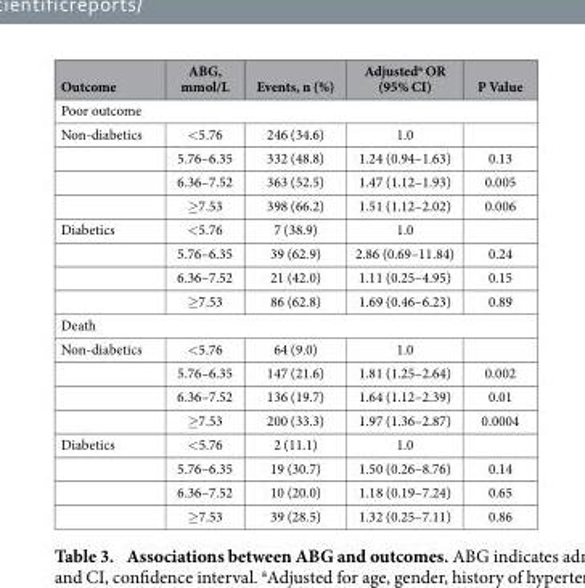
<table><thead><tr><td>Outcome</td><td>ABG, mmol/L</td><td>Events, n (%)</td><td>Adjusted<sup>a</sup> OR (95% CI)</td><td>P Value</td></tr></thead><tbody><tr><td colspan="5">Poor outcome</td></tr><tr><td rowspan="4">Non-diabetics</td><td>&lt; 5.76</td><td>246 (34.6)</td><td>1.0</td><td></td></tr><tr><td>5.76–6.35</td><td>332 (48.8)</td><td>1.24 (0.94–1.63)</td><td>0.13</td></tr><tr><td>6.36–7.52</td><td>363 (52.5)</td><td>1.47 (1.12–1.93)</td><td>0.005</td></tr><tr><td>≥ 7.53</td><td>398 (66.2)</td><td>1.51 (1.12–2.02)</td><td>0.006</td></tr><tr><td rowspan="4">Diabetics</td><td>&lt; 5.76</td><td>7 (38.9)</td><td>1.0</td><td></td></tr><tr><td>5.76–6.35</td><td>39 (62.9)</td><td>2.86 (0.69–11.84)</td><td>0.24</td></tr><tr><td>6.36–7.52</td><td>21 (42.0)</td><td>1.11 (0.25–4.95)</td><td>0.15</td></tr><tr><td>≥ 7.53</td><td>86 (62.8)</td><td>1.69 (0.46–6.23)</td><td>0.89</td></tr><tr><td colspan="5">Death</td></tr><tr><td rowspan="4">Non-diabetics</td><td>&lt; 5.76</td><td>64 (9.0)</td><td>1.0</td><td></td></tr><tr><td>5.76–6.35</td><td>147 (21.6)</td><td>1.81 (1.25–2.64)</td><td>0.002</td></tr><tr><td>6.36–7.52</td><td>136 (19.7)</td><td>1.64 (1.12–2.39)</td><td>0.01</td></tr><tr><td>≥ 7.53</td><td>200 (33.3)</td><td>1.97 (1.36–2.87)</td><td>0.0004</td></tr><tr><td rowspan="4">Diabetics</td><td>&lt; 5.76</td><td>2 (11.1)</td><td>1.0</td><td></td></tr><tr><td>5.76–6.35</td><td>19 (30.7)</td><td>1.50 (0.26–8.76)</td><td>0.14</td></tr><tr><td>6.36–7.52</td><td>10 (20.0)</td><td>1.18 (0.19–7.24)</td><td>0.65</td></tr><tr><td>≥ 7.53</td><td>39 (28.5)</td><td>1.32 (0.25–7.11)</td><td>0.86</td></tr></tbody></table>